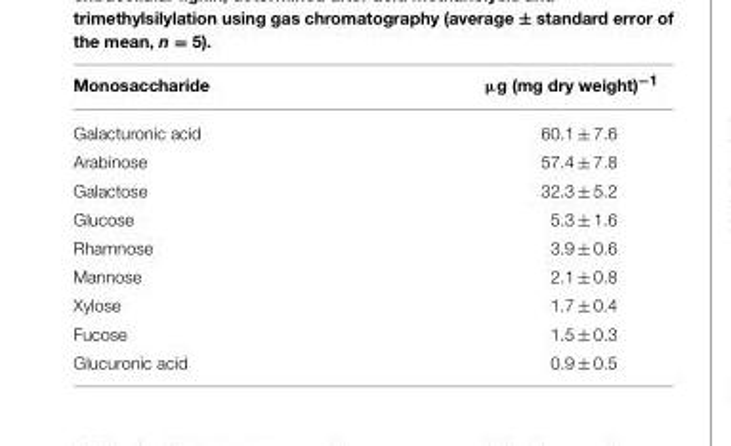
<table><thead><tr><td>Monosaccharide</td><td>µg (mg dry weight)<sup>−1</sup></td></tr></thead><tbody><tr><td>Galacturonic acid</td><td>60.1 ± 7.6</td></tr><tr><td>Arabinose</td><td>57.4 ± 7.8</td></tr><tr><td>Galactose</td><td>32.3 ± 5.2</td></tr><tr><td>Glucose</td><td>5.3 ± 1.6</td></tr><tr><td>Rhamnose</td><td>3.9 ± 0.6</td></tr><tr><td>Mannose</td><td>2.1 ± 0.8</td></tr><tr><td>Xylose</td><td>1.7 ± 0.4</td></tr><tr><td>Fucose</td><td>1.5 ± 0.3</td></tr><tr><td>Glucuronic acid</td><td>0.9 ± 0.5</td></tr></tbody></table>